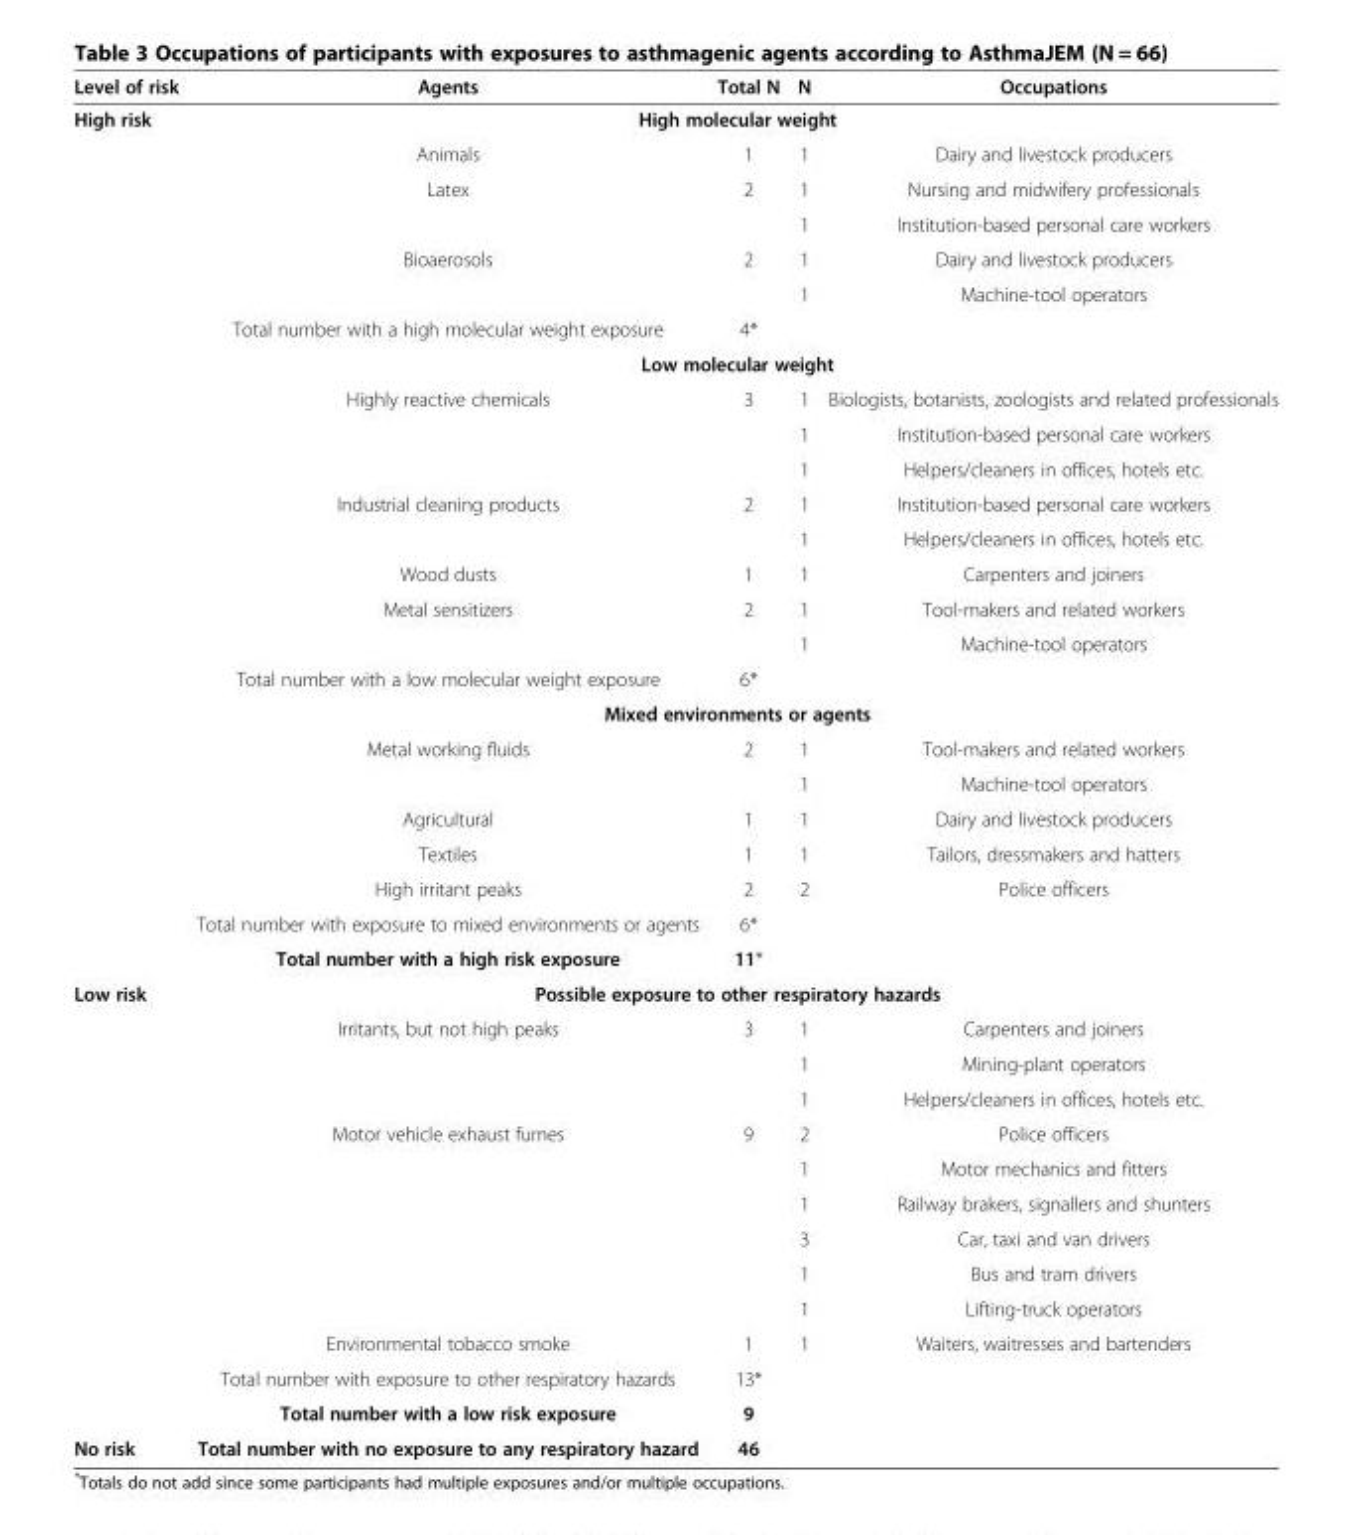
<table><thead><tr><td>Level of risk</td><td>Agents</td><td>Total N</td><td>N</td><td>Occupations</td></tr></thead><tbody><tr><td rowspan="25">High risk</td><td colspan="4">High molecular weight</td></tr><tr><td>Animals</td><td>1</td><td>1</td><td>Dairy and livestock producers</td></tr><tr><td>Latex</td><td>2</td><td>1</td><td>Nursing and midwifery professionals</td></tr><tr><td></td><td></td><td>1</td><td>Institution-based personal care workers</td></tr><tr><td>Bioaerosols</td><td>2</td><td>1</td><td>Dairy and livestock producers</td></tr><tr><td></td><td></td><td>1</td><td>Machine-tool operators</td></tr><tr><td>Total number with a high molecular weight exposure</td><td>4*</td><td></td><td></td></tr><tr><td colspan="4">Low molecular weight</td></tr><tr><td>Highly reactive chemicals</td><td>3</td><td>1</td><td>Biologists, botanists, zoologists and related professionals</td></tr><tr><td></td><td></td><td>1</td><td>Institution-based personal care workers</td></tr><tr><td></td><td></td><td>1</td><td>Helpers/cleaners in offices, hotels etc.</td></tr><tr><td>Industrial cleaning products</td><td>2</td><td>1</td><td>Institution-based personal care workers</td></tr><tr><td></td><td></td><td>1</td><td>Helpers/cleaners in offices, hotels etc.</td></tr><tr><td>Wood dusts</td><td>1</td><td>1</td><td>Carpenters and joiners</td></tr><tr><td>Metal sensitizers</td><td>2</td><td>1</td><td>Tool-makers and related workers</td></tr><tr><td></td><td></td><td>1</td><td>Machine-tool operators</td></tr><tr><td>Total number with a low molecular weight exposure</td><td>6*</td><td></td><td></td></tr><tr><td colspan="4">Mixed environments or agents</td></tr><tr><td>Metal working fluids</td><td>2</td><td>1</td><td>Tool-makers and related workers</td></tr><tr><td></td><td></td><td>1</td><td>Machine-tool operators</td></tr><tr><td>Agricultural</td><td>1</td><td>1</td><td>Dairy and livestock producers</td></tr><tr><td>Textiles</td><td>1</td><td>1</td><td>Tailors, dressmakers and hatters</td></tr><tr><td>High irritant peaks</td><td>2</td><td>2</td><td>Police officers</td></tr><tr><td>Total number with exposure to mixed environments or agents</td><td>6*</td><td></td><td></td></tr><tr><td>Total number with a high risk exposure</td><td>11*</td><td></td><td></td></tr><tr><td rowspan="13">Low risk</td><td colspan="4">Possible exposure to other respiratory hazards</td></tr><tr><td>Irritants, but not high peaks</td><td>3</td><td>1</td><td>Carpenters and joiners</td></tr><tr><td></td><td></td><td>1</td><td>Mining-plant operators</td></tr><tr><td></td><td></td><td>1</td><td>Helpers/cleaners in offices, hotels etc.</td></tr><tr><td>Motor vehicle exhaust fumes</td><td>9</td><td>2</td><td>Police officers</td></tr><tr><td></td><td></td><td>1</td><td>Motor mechanics and fitters</td></tr><tr><td></td><td></td><td>1</td><td>Railway brakers, signallers and shunters</td></tr><tr><td></td><td></td><td>3</td><td>Car, taxi and van drivers</td></tr><tr><td></td><td></td><td>1</td><td>Bus and tram drivers</td></tr><tr><td></td><td></td><td>1</td><td>Lifting-truck operators</td></tr><tr><td>Environmental tobacco smoke</td><td>1</td><td>1</td><td>Waiters, waitresses and bartenders</td></tr><tr><td>Total number with exposure to other respiratory hazards</td><td>13*</td><td></td><td></td></tr><tr><td>Total number with a low risk exposure</td><td>9</td><td></td><td></td></tr><tr><td>No risk</td><td>Total number with no exposure to any respiratory hazard</td><td>46</td><td></td><td></td></tr></tbody></table>